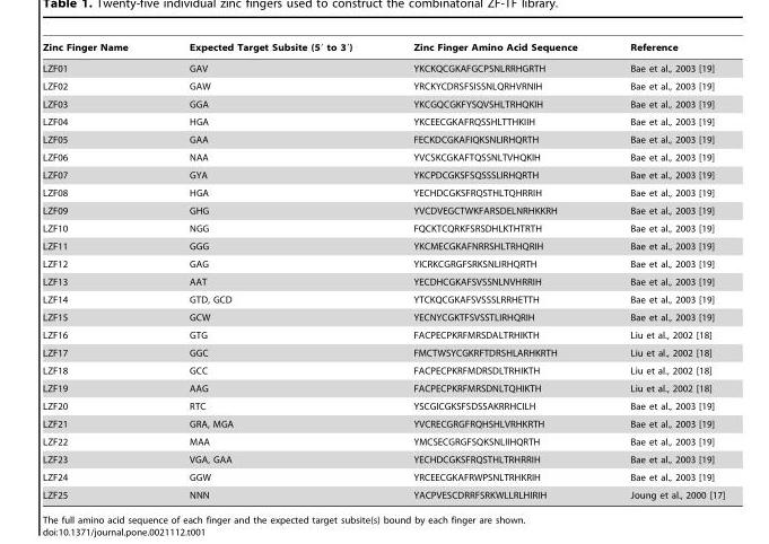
<table><thead><tr><td>Zinc Finger Name</td><td>Expected Target Subsite (5′ to 3′)</td><td>Zinc Finger Amino Acid Sequence</td><td>Reference</td></tr></thead><tbody><tr><td>LZF01</td><td>GAV</td><td>YKCKQCGKAFGCPSNLRRHGRTH</td><td>Bae et al., 2003 [19]</td></tr><tr><td>LZF02</td><td>GAW</td><td>YRCKYCDRSFSISSNLQRHVRNIH</td><td>Bae et al., 2003 [19]</td></tr><tr><td>LZF03</td><td>GGA</td><td>YKCGQCGKFYSQVSHLTRHQKIH</td><td>Bae et al., 2003 [19]</td></tr><tr><td>LZF04</td><td>HGA</td><td>YKCEECGKAFRQSSHLTTHKIIH</td><td>Bae et al., 2003 [19]</td></tr><tr><td>LZF05</td><td>GAA</td><td>FECKDCGKAFIQKSNLIRHQRTH</td><td>Bae et al., 2003 [19]</td></tr><tr><td>LZF06</td><td>NAA</td><td>YVCSKCGKAFTQSSNLTVHQKIH</td><td>Bae et al., 2003 [19]</td></tr><tr><td>LZF07</td><td>GYA</td><td>YKCPDCGKSFSQSSSLIRHQRTH</td><td>Bae et al., 2003 [19]</td></tr><tr><td>LZF08</td><td>HGA</td><td>YECHDCGKSFRQSTHLTQHRRIH</td><td>Bae et al., 2003 [19]</td></tr><tr><td>LZF09</td><td>GHG</td><td>YVCDVEGCTWKFARSDELNRHKKRH</td><td>Bae et al., 2003 [19]</td></tr><tr><td>LZF10</td><td>NGG</td><td>FQCKTCQRKFSRSDHLKTHTRTH</td><td>Bae et al., 2003 [19]</td></tr><tr><td>LZF11</td><td>GGG</td><td>YKCMECGKAFNRRSHLTRHQRIH</td><td>Bae et al., 2003 [19]</td></tr><tr><td>LZF12</td><td>GAG</td><td>YICRKCGRGFSRKSNLIRHQRTH</td><td>Bae et al., 2003 [19]</td></tr><tr><td>LZF13</td><td>AAT</td><td>YECDHCGKAFSVSSNLNVHRRIH</td><td>Bae et al., 2003 [19]</td></tr><tr><td>LZF14</td><td>GTD, GCD</td><td>YTCKQCGKAFSVSSSLRRHETTH</td><td>Bae et al., 2003 [19]</td></tr><tr><td>LZF15</td><td>GCW</td><td>YECNYCGKTFSVSSTLIRHQRIH</td><td>Bae et al., 2003 [19]</td></tr><tr><td>LZF16</td><td>GTG</td><td>FACPECPKRFMRSDALTRHIKTH</td><td>Liu et al., 2002 [18]</td></tr><tr><td>LZF17</td><td>GGC</td><td>FMCTWSYCGKRFTDRSHLARHKRTH</td><td>Liu et al., 2002 [18]</td></tr><tr><td>LZF18</td><td>GCC</td><td>FACPECPKRFMDRSDLTRHIKTH</td><td>Liu et al., 2002 [18]</td></tr><tr><td>LZF19</td><td>AAG</td><td>FACPECPKRFMRSDNLTQHIKTH</td><td>Liu et al., 2002 [18]</td></tr><tr><td>LZF20</td><td>RTC</td><td>YSCGICGKSFSDSSAKRRHCILH</td><td>Bae et al., 2003 [19]</td></tr><tr><td>LZF21</td><td>GRA, MGA</td><td>YVCRECGRGFRQHSHLVRHKRTH</td><td>Bae et al., 2003 [19]</td></tr><tr><td>LZF22</td><td>MAA</td><td>YMCSECGRGFSQKSNLIIHQRTH</td><td>Bae et al., 2003 [19]</td></tr><tr><td>LZF23</td><td>VGA, GAA</td><td>YECHDCGKSFRQSTHLTRHRRIH</td><td>Bae et al., 2003 [19]</td></tr><tr><td>LZF24</td><td>GGW</td><td>YRCEECGKAFRWPSNLTRHKRIH</td><td>Bae et al., 2003 [19]</td></tr><tr><td>LZF25</td><td>NNN</td><td>YACPVESCDRRFSRKWLLRLHIRIH</td><td>Joung et al., 2000 [17]</td></tr></tbody></table>